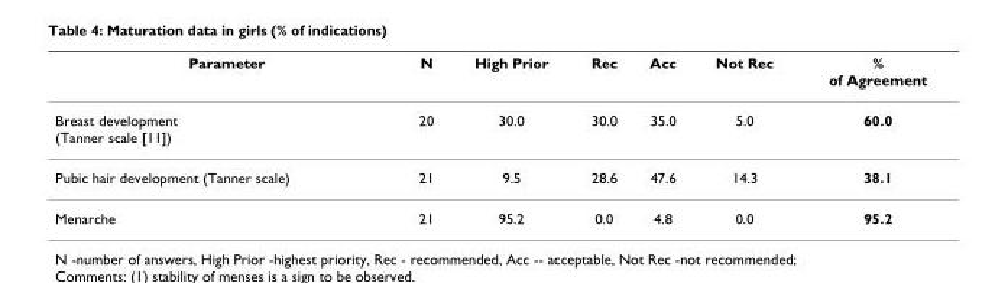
<table><thead><tr><td>Parameter</td><td>N</td><td>High Prior</td><td>Rec</td><td>Acc</td><td>Not Rec</td><td>% of Agreement</td></tr></thead><tbody><tr><td>Breast development (Tanner scale [11])</td><td>20</td><td>30.0</td><td>30.0</td><td>35.0</td><td>5.0</td><td>60.0</td></tr><tr><td>Pubic hair development (Tanner scale)</td><td>21</td><td>9.5</td><td>28.6</td><td>47.6</td><td>14.3</td><td>38.1</td></tr><tr><td>Menarche</td><td>21</td><td>95.2</td><td>0.0</td><td>4.8</td><td>0.0</td><td>95.2</td></tr></tbody></table>